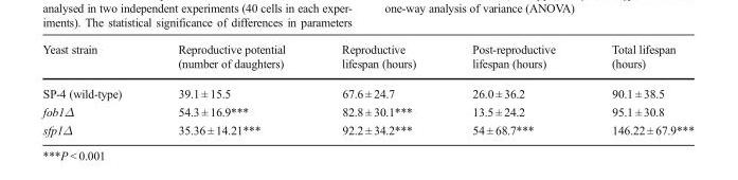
<table><thead><tr><td>Yeast strain</td><td>Reproductive potential (number of daughters)</td><td>Reproductive lifespan (hours)</td><td>Post-reproductive lifespan (hours)</td><td>Total lifespan (hours)</td></tr></thead><tbody><tr><td>SP-4 (wild-type)</td><td>39.1 ± 15.5</td><td>67.6 ± 24.7</td><td>26.0 ± 36.2</td><td>90.1 ± 38.5</td></tr><tr><td>fob1Δ</td><td>54.3 ± 16.9***</td><td>82.8 ± 30.1***</td><td>13.5 ± 24.2</td><td>95.1 ± 30.8</td></tr><tr><td>sfp1Δ</td><td>35.36 ± 14.21***</td><td>92.2 ± 34.2***</td><td>54 ± 68.7***</td><td>146.22 ± 67.9***</td></tr></tbody></table>